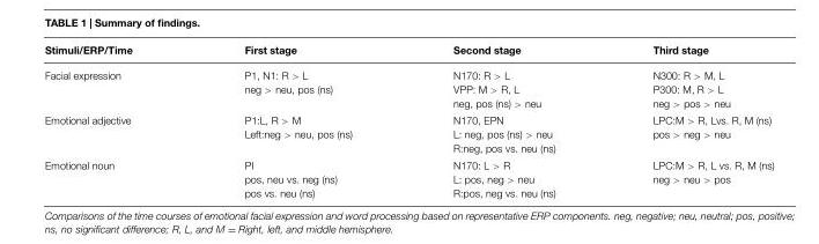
<table><thead><tr><td>Stimuli/ERP/Time</td><td>First stage</td><td>Second stage</td><td>Third stage</td></tr></thead><tbody><tr><td>Facial expression</td><td>P1, N1: R &gt; L neg &gt; neu, pos (ns)</td><td>N170: R &gt; L VPP: M &gt; R, L neg, pos (ns) &gt; neu</td><td>N300: R &gt; M, L P300: M, R &gt; L neg &gt; pos &gt; neu</td></tr><tr><td>Emotional adjective</td><td>P1:L, R &gt; M Left:neg &gt; neu, pos (ns)</td><td>N170, EPN L: neg, pos (ns) &gt; neu R:neg, pos vs. neu (ns)</td><td>LPC:M &gt; R, Lvs. R, M (ns) pos &gt; neg &gt; neu</td></tr><tr><td>Emotional noun</td><td>PI pos, neu vs. neg (ns) pos vs. neu (ns)</td><td>N170: L &gt; R L: pos, neg &gt; neu R:pos, neg vs. neu (ns)</td><td>LPC:M &gt; R, L vs. R, M (ns) neg &gt; neu &gt; pos</td></tr></tbody></table>